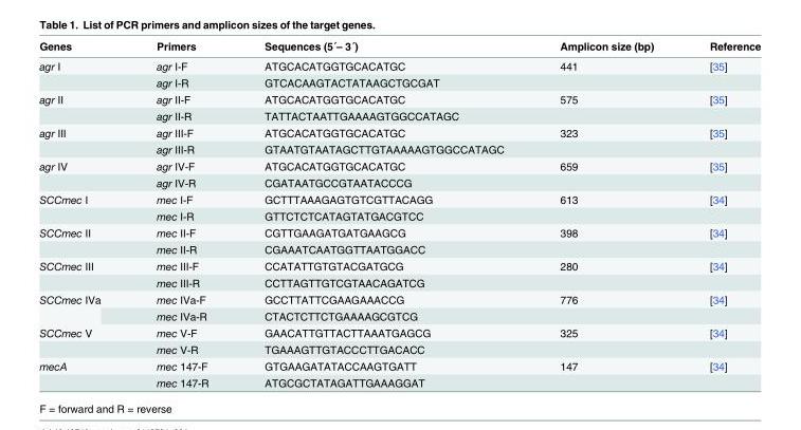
<table><thead><tr><td>Genes</td><td>Primers</td><td>Sequences (5´– 3´)</td><td>Amplicon size (bp)</td><td>Reference</td></tr></thead><tbody><tr><td rowspan="2">agr I</td><td>agr I-F</td><td>ATGCACATGGTGCACATGC</td><td>441</td><td>[35]</td></tr><tr><td>agr I-R</td><td>GTCACAAGTACTATAAGCTGCGAT</td><td></td><td></td></tr><tr><td rowspan="2">agr II</td><td>agr II-F</td><td>ATGCACATGGTGCACATGC</td><td>575</td><td>[35]</td></tr><tr><td>agr II-R</td><td>TATTACTAATTGAAAAGTGGCCATAGC</td><td></td><td></td></tr><tr><td rowspan="2">agr III</td><td>agr III-F</td><td>ATGCACATGGTGCACATGC</td><td>323</td><td>[35]</td></tr><tr><td>agr III-R</td><td>GTAATGTAATAGCTTGTAAAAAGTGGCCATAGC</td><td></td><td></td></tr><tr><td rowspan="2">agr IV</td><td>agr IV-F</td><td>ATGCACATGGTGCACATGC</td><td>659</td><td>[35]</td></tr><tr><td>agr IV-R</td><td>CGATAATGCCGTAATACCCG</td><td></td><td></td></tr><tr><td rowspan="2">SCCmec I</td><td>mec I-F</td><td>GCTTTAAAGAGTGTCGTTACAGG</td><td>613</td><td>[34]</td></tr><tr><td>mec I-R</td><td>GTTCTCTCATAGTATGACGTCC</td><td></td><td></td></tr><tr><td rowspan="2">SCCmec II</td><td>mec II-F</td><td>CGTTGAAGATGATGAAGCG</td><td>398</td><td>[34]</td></tr><tr><td>mec II-R</td><td>CGAAATCAATGGTTAATGGACC</td><td></td><td></td></tr><tr><td rowspan="2">SCCmec III</td><td>mec III-F</td><td>CCATATTGTGTACGATGCG</td><td>280</td><td>[34]</td></tr><tr><td>mec III-R</td><td>CCTTAGTTGTCGTAACAGATCG</td><td></td><td></td></tr><tr><td rowspan="2">SCCmec IVa</td><td>mec IVa-F</td><td>GCCTTATTCGAAGAAACCG</td><td>776</td><td>[34]</td></tr><tr><td>mec IVa-R</td><td>CTACTCTTCTGAAAAGCGTCG</td><td></td><td></td></tr><tr><td rowspan="2">SCCmec V</td><td>mec V-F</td><td>GAACATTGTTACTTAAATGAGCG</td><td>325</td><td>[34]</td></tr><tr><td>mec V-R</td><td>TGAAAGTTGTACCCTTGACACC</td><td></td><td></td></tr><tr><td rowspan="2">mecA</td><td>mec 147-F</td><td>GTGAAGATATACCAAGTGATT</td><td>147</td><td>[34]</td></tr><tr><td>mec 147-R</td><td>ATGCGCTATAGATTGAAAGGAT</td><td></td><td></td></tr></tbody></table>